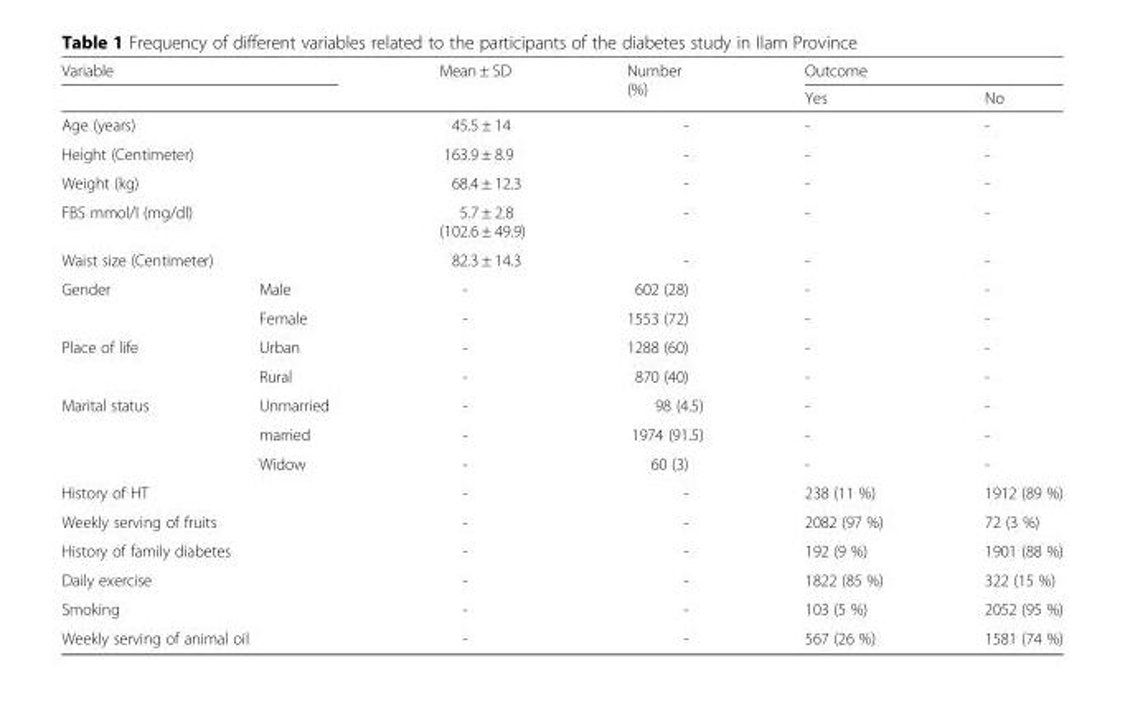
<table><thead><tr><td colspan="2">Variable</td><td rowspan="2">Mean ± SD</td><td rowspan="2">Number (%)</td><td colspan="2">Outcome</td></tr><tr><td></td><td></td><td>Yes</td><td>No</td></tr></thead><tbody><tr><td colspan="2">Age (years)</td><td>45.5 ± 14</td><td>-</td><td>-</td><td>-</td></tr><tr><td colspan="2">Height (Centimeter)</td><td>163.9 ± 8.9</td><td>-</td><td>-</td><td>-</td></tr><tr><td colspan="2">Weight (kg)</td><td>68.4 ± 12.3</td><td>-</td><td>-</td><td>-</td></tr><tr><td colspan="2">FBS mmol/l (mg/dl)</td><td>5.7 ± 2.8 (102.6 ± 49.9)</td><td>-</td><td>-</td><td>-</td></tr><tr><td colspan="2">Waist size (Centimeter)</td><td>82.3 ± 14.3</td><td>-</td><td>-</td><td>-</td></tr><tr><td rowspan="2">Gender</td><td>Male</td><td>-</td><td>602 (28)</td><td>-</td><td>-</td></tr><tr><td>Female</td><td>-</td><td>1553 (72)</td><td>-</td><td>-</td></tr><tr><td rowspan="2">Place of life</td><td>Urban</td><td>-</td><td>1288 (60)</td><td>-</td><td>-</td></tr><tr><td>Rural</td><td>-</td><td>870 (40)</td><td>-</td><td>-</td></tr><tr><td rowspan="3">Marital status</td><td>Unmarried</td><td>-</td><td>98 (4.5)</td><td>-</td><td>-</td></tr><tr><td>married</td><td>-</td><td>1974 (91.5)</td><td>-</td><td>-</td></tr><tr><td>Widow</td><td>-</td><td>60 (3)</td><td>-</td><td>-</td></tr><tr><td colspan="2">History of HT</td><td>-</td><td>-</td><td>238 (11 %)</td><td>1912 (89 %)</td></tr><tr><td colspan="2">Weekly serving of fruits</td><td>-</td><td>-</td><td>2082 (97 %)</td><td>72 (3 %)</td></tr><tr><td colspan="2">History of family diabetes</td><td>-</td><td>-</td><td>192 (9 %)</td><td>1901 (88 %)</td></tr><tr><td colspan="2">Daily exercise</td><td>-</td><td>-</td><td>1822 (85 %)</td><td>322 (15 %)</td></tr><tr><td colspan="2">Smoking</td><td>-</td><td>-</td><td>103 (5 %)</td><td>2052 (95 %)</td></tr><tr><td colspan="2">Weekly serving of animal oil</td><td>-</td><td>-</td><td>567 (26 %)</td><td>1581 (74 %)</td></tr></tbody></table>